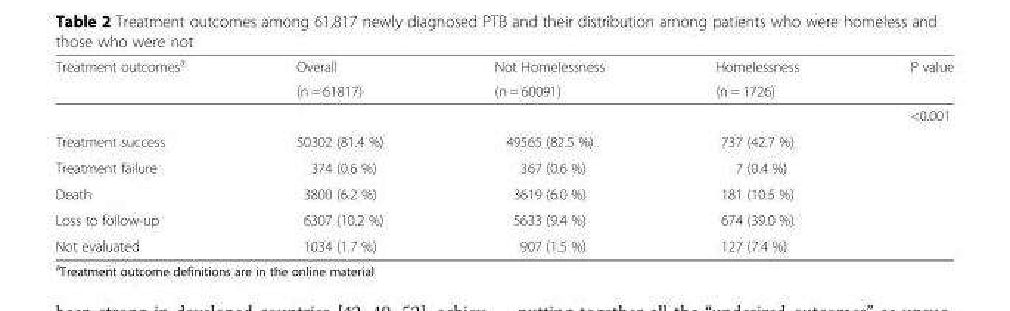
<table><thead><tr><td rowspan="2">Treatment outcomes<sup>a</sup></td><td rowspan="2">Overall (n = 61817)</td><td rowspan="2">Not Homelessness (n = 60091)</td><td rowspan="2">Homelessness (n = 1726)</td><td rowspan="2">P value</td></tr><tr></tr></thead><tbody><tr><td></td><td></td><td></td><td></td><td>&lt;0.001</td></tr><tr><td>Treatment success</td><td>50302 (81.4 %)</td><td>49565 (82.5 %)</td><td>737 (42.7 %)</td><td></td></tr><tr><td>Treatment failure</td><td>374 (0.6 %)</td><td>367 (0.6 %)</td><td>7 (0.4 %)</td><td></td></tr><tr><td>Death</td><td>3800 (6.2 %)</td><td>3619 (6.0 %)</td><td>181 (10.5 %)</td><td></td></tr><tr><td>Loss to follow-up</td><td>6307 (10.2 %)</td><td>5633 (9.4 %)</td><td>674 (39.0 %)</td><td></td></tr><tr><td>Not evaluated</td><td>1034 (1.7 %)</td><td>907 (1.5 %)</td><td>127 (7.4 %)</td><td></td></tr></tbody></table>